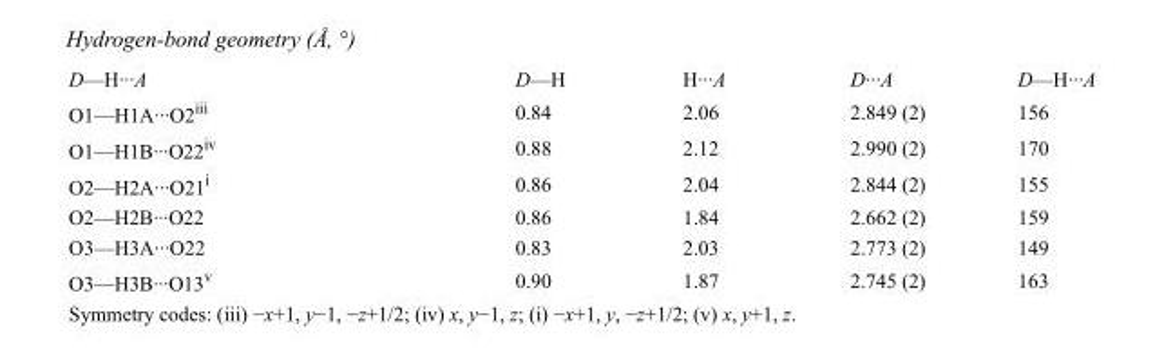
<table><tbody><tr><td>D—H···A</td><td>D—H</td><td>H···A</td><td>D···A</td><td>D—H···A</td></tr><tr><td>O1—H1A···O2<sup>iii</sup></td><td>0.84</td><td>2.06</td><td>2.849 (2)</td><td>156</td></tr><tr><td>O1—H1B···O22<sup>iv</sup></td><td>0.88</td><td>2.12</td><td>2.990 (2)</td><td>170</td></tr><tr><td>O2—H2A···O21<sup>i</sup></td><td>0.86</td><td>2.04</td><td>2.844 (2)</td><td>155</td></tr><tr><td>O2—H2B···O22</td><td>0.86</td><td>1.84</td><td>2.662 (2)</td><td>159</td></tr><tr><td>O3—H3A···O22</td><td>0.83</td><td>2.03</td><td>2.773 (2)</td><td>149</td></tr><tr><td>O3—H3B···O13<sup>v</sup></td><td>0.90</td><td>1.87</td><td>2.745 (2)</td><td>163</td></tr></tbody></table>